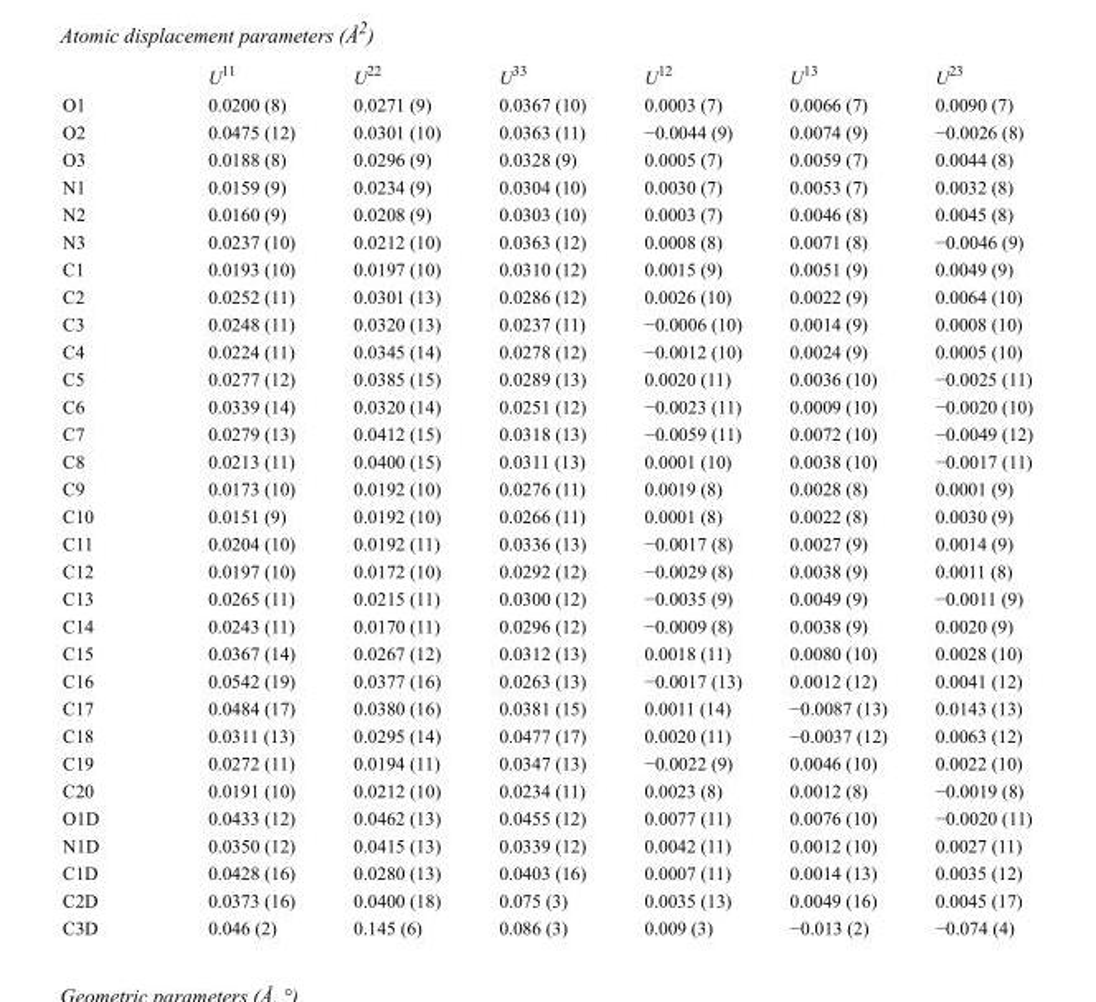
<table><thead><tr><td></td><td>U<sup>11</sup></td><td>U<sup>22</sup></td><td>U<sup>33</sup></td><td>U<sup>12</sup></td><td>U<sup>13</sup></td><td>U<sup>23</sup></td></tr></thead><tbody><tr><td>O1</td><td>0.0200 (8)</td><td>0.0271 (9)</td><td>0.0367 (10)</td><td>0.0003 (7)</td><td>0.0066 (7)</td><td>0.0090 (7)</td></tr><tr><td>O2</td><td>0.0475 (12)</td><td>0.0301 (10)</td><td>0.0363 (11)</td><td>−0.0044 (9)</td><td>0.0074 (9)</td><td>−0.0026 (8)</td></tr><tr><td>O3</td><td>0.0188 (8)</td><td>0.0296 (9)</td><td>0.0328 (9)</td><td>0.0005 (7)</td><td>0.0059 (7)</td><td>0.0044 (8)</td></tr><tr><td>N1</td><td>0.0159 (9)</td><td>0.0234 (9)</td><td>0.0304 (10)</td><td>0.0030 (7)</td><td>0.0053 (7)</td><td>0.0032 (8)</td></tr><tr><td>N2</td><td>0.0160 (9)</td><td>0.0208 (9)</td><td>0.0303 (10)</td><td>0.0003 (7)</td><td>0.0046 (8)</td><td>0.0045 (8)</td></tr><tr><td>N3</td><td>0.0237 (10)</td><td>0.0212 (10)</td><td>0.0363 (12)</td><td>0.0008 (8)</td><td>0.0071 (8)</td><td>−0.0046 (9)</td></tr><tr><td>C1</td><td>0.0193 (10)</td><td>0.0197 (10)</td><td>0.0310 (12)</td><td>0.0015 (9)</td><td>0.0051 (9)</td><td>0.0049 (9)</td></tr><tr><td>C2</td><td>0.0252 (11)</td><td>0.0301 (13)</td><td>0.0286 (12)</td><td>0.0026 (10)</td><td>0.0022 (9)</td><td>0.0064 (10)</td></tr><tr><td>C3</td><td>0.0248 (11)</td><td>0.0320 (13)</td><td>0.0237 (11)</td><td>−0.0006 (10)</td><td>0.0014 (9)</td><td>0.0008 (10)</td></tr><tr><td>C4</td><td>0.0224 (11)</td><td>0.0345 (14)</td><td>0.0278 (12)</td><td>−0.0012 (10)</td><td>0.0024 (9)</td><td>0.0005 (10)</td></tr><tr><td>C5</td><td>0.0277 (12)</td><td>0.0385 (15)</td><td>0.0289 (13)</td><td>0.0020 (11)</td><td>0.0036 (10)</td><td>−0.0025 (11)</td></tr><tr><td>C6</td><td>0.0339 (14)</td><td>0.0320 (14)</td><td>0.0251 (12)</td><td>−0.0023 (11)</td><td>0.0009 (10)</td><td>−0.0020 (10)</td></tr><tr><td>C7</td><td>0.0279 (13)</td><td>0.0412 (15)</td><td>0.0318 (13)</td><td>−0.0059 (11)</td><td>0.0072 (10)</td><td>−0.0049 (12)</td></tr><tr><td>C8</td><td>0.0213 (11)</td><td>0.0400 (15)</td><td>0.0311 (13)</td><td>0.0001 (10)</td><td>0.0038 (10)</td><td>−0.0017 (11)</td></tr><tr><td>C9</td><td>0.0173 (10)</td><td>0.0192 (10)</td><td>0.0276 (11)</td><td>0.0019 (8)</td><td>0.0028 (8)</td><td>0.0001 (9)</td></tr><tr><td>C10</td><td>0.0151 (9)</td><td>0.0192 (10)</td><td>0.0266 (11)</td><td>0.0001 (8)</td><td>0.0022 (8)</td><td>0.0030 (9)</td></tr><tr><td>C11</td><td>0.0204 (10)</td><td>0.0192 (11)</td><td>0.0336 (13)</td><td>−0.0017 (8)</td><td>0.0027 (9)</td><td>0.0014 (9)</td></tr><tr><td>C12</td><td>0.0197 (10)</td><td>0.0172 (10)</td><td>0.0292 (12)</td><td>−0.0029 (8)</td><td>0.0038 (9)</td><td>0.0011 (8)</td></tr><tr><td>C13</td><td>0.0265 (11)</td><td>0.0215 (11)</td><td>0.0300 (12)</td><td>−0.0035 (9)</td><td>0.0049 (9)</td><td>−0.0011 (9)</td></tr><tr><td>C14</td><td>0.0243 (11)</td><td>0.0170 (11)</td><td>0.0296 (12)</td><td>−0.0009 (8)</td><td>0.0038 (9)</td><td>0.0020 (9)</td></tr><tr><td>C15</td><td>0.0367 (14)</td><td>0.0267 (12)</td><td>0.0312 (13)</td><td>0.0018 (11)</td><td>0.0080 (10)</td><td>0.0028 (10)</td></tr><tr><td>C16</td><td>0.0542 (19)</td><td>0.0377 (16)</td><td>0.0263 (13)</td><td>−0.0017 (13)</td><td>0.0012 (12)</td><td>0.0041 (12)</td></tr><tr><td>C17</td><td>0.0484 (17)</td><td>0.0380 (16)</td><td>0.0381 (15)</td><td>0.0011 (14)</td><td>−0.0087 (13)</td><td>0.0143 (13)</td></tr><tr><td>C18</td><td>0.0311 (13)</td><td>0.0295 (14)</td><td>0.0477 (17)</td><td>0.0020 (11)</td><td>−0.0037 (12)</td><td>0.0063 (12)</td></tr><tr><td>C19</td><td>0.0272 (11)</td><td>0.0194 (11)</td><td>0.0347 (13)</td><td>−0.0022 (9)</td><td>0.0046 (10)</td><td>0.0022 (10)</td></tr><tr><td>C20</td><td>0.0191 (10)</td><td>0.0212 (10)</td><td>0.0234 (11)</td><td>0.0023 (8)</td><td>0.0012 (8)</td><td>−0.0019 (8)</td></tr><tr><td>O1D</td><td>0.0433 (12)</td><td>0.0462 (13)</td><td>0.0455 (12)</td><td>0.0077 (11)</td><td>0.0076 (10)</td><td>−0.0020 (11)</td></tr><tr><td>N1D</td><td>0.0350 (12)</td><td>0.0415 (13)</td><td>0.0339 (12)</td><td>0.0042 (11)</td><td>0.0012 (10)</td><td>0.0027 (11)</td></tr><tr><td>C1D</td><td>0.0428 (16)</td><td>0.0280 (13)</td><td>0.0403 (16)</td><td>0.0007 (11)</td><td>0.0014 (13)</td><td>0.0035 (12)</td></tr><tr><td>C2D</td><td>0.0373 (16)</td><td>0.0400 (18)</td><td>0.075 (3)</td><td>0.0035 (13)</td><td>0.0049 (16)</td><td>0.0045 (17)</td></tr><tr><td>C3D</td><td>0.046 (2)</td><td>0.145 (6)</td><td>0.086 (3)</td><td>0.009 (3)</td><td>−0.013 (2)</td><td>−0.074 (4)</td></tr></tbody></table>